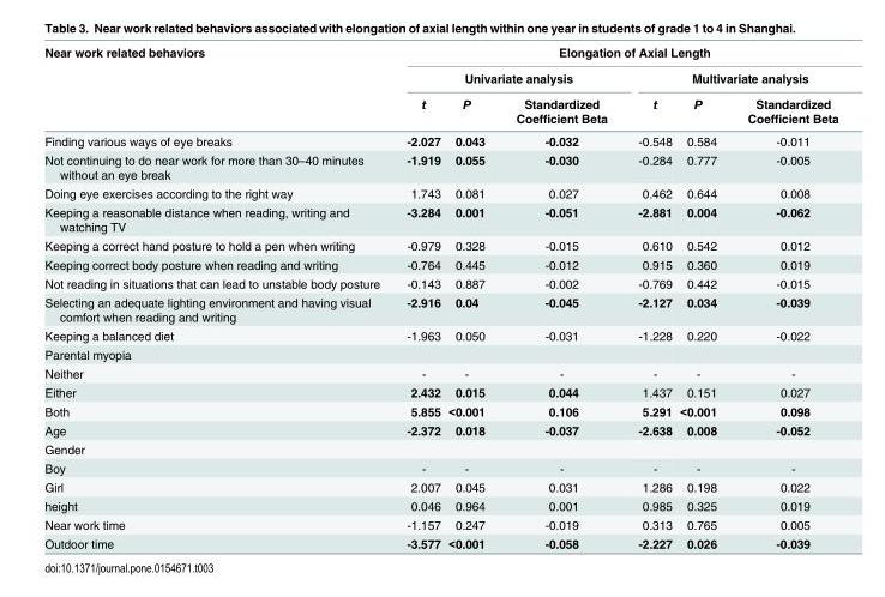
<table><thead><tr><td rowspan="3">Near work related behaviors</td><td colspan="6">Elongation of Axial Length</td></tr><tr><td colspan="3">Univariate analysis</td><td colspan="3">Multivariate analysis</td></tr><tr><td>t</td><td>P</td><td>Standardized Coefficient Beta</td><td>t</td><td>P</td><td>Standardized Coefficient Beta</td></tr></thead><tbody><tr><td>Finding various ways of eye breaks</td><td>-2.027</td><td>0.043</td><td>-0.032</td><td>-0.548</td><td>0.584</td><td>-0.011</td></tr><tr><td>Not continuing to do near work for more than 30–40 minutes without an eye break</td><td>-1.919</td><td>0.055</td><td>-0.030</td><td>-0.284</td><td>0.777</td><td>-0.005</td></tr><tr><td>Doing eye exercises according to the right way</td><td>1.743</td><td>0.081</td><td>0.027</td><td>0.462</td><td>0.644</td><td>0.008</td></tr><tr><td>Keeping a reasonable distance when reading, writing and watching TV</td><td>-3.284</td><td>0.001</td><td>-0.051</td><td>-2.881</td><td>0.004</td><td>-0.062</td></tr><tr><td>Keeping a correct hand posture to hold a pen when writing</td><td>-0.979</td><td>0.328</td><td>-0.015</td><td>0.610</td><td>0.542</td><td>0.012</td></tr><tr><td>Keeping correct body posture when reading and writing</td><td>-0.764</td><td>0.445</td><td>-0.012</td><td>0.915</td><td>0.360</td><td>0.019</td></tr><tr><td>Not reading in situations that can lead to unstable body posture</td><td>-0.143</td><td>0.887</td><td>-0.002</td><td>-0.769</td><td>0.442</td><td>-0.015</td></tr><tr><td>Selecting an adequate lighting environment and having visual comfort when reading and writing</td><td>-2.916</td><td>0.04</td><td>-0.045</td><td>-2.127</td><td>0.034</td><td>-0.039</td></tr><tr><td>Keeping a balanced diet</td><td>-1.963</td><td>0.050</td><td>-0.031</td><td>-1.228</td><td>0.220</td><td>-0.022</td></tr><tr><td colspan="7">Parental myopia</td></tr><tr><td>Neither</td><td>-</td><td>-</td><td>-</td><td>-</td><td>-</td><td>-</td></tr><tr><td>Either</td><td>2.432</td><td>0.015</td><td>0.044</td><td>1.437</td><td>0.151</td><td>0.027</td></tr><tr><td>Both</td><td>5.855</td><td>&lt;0.001</td><td>0.106</td><td>5.291</td><td>&lt;0.001</td><td>0.098</td></tr><tr><td>Age</td><td>-2.372</td><td>0.018</td><td>-0.037</td><td>-2.638</td><td>0.008</td><td>-0.052</td></tr><tr><td colspan="7">Gender</td></tr><tr><td>Boy</td><td>-</td><td>-</td><td>-</td><td>-</td><td>-</td><td>-</td></tr><tr><td>Girl</td><td>2.007</td><td>0.045</td><td>0.031</td><td>1.286</td><td>0.198</td><td>0.022</td></tr><tr><td>height</td><td>0.046</td><td>0.964</td><td>0.001</td><td>0.985</td><td>0.325</td><td>0.019</td></tr><tr><td>Near work time</td><td>-1.157</td><td>0.247</td><td>-0.019</td><td>0.313</td><td>0.765</td><td>0.005</td></tr><tr><td>Outdoor time</td><td>-3.577</td><td>&lt;0.001</td><td>-0.058</td><td>-2.227</td><td>0.026</td><td>-0.039</td></tr></tbody></table>